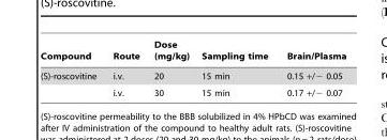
<table><thead><tr><td>Compound</td><td>Route</td><td>Dose (mg/kg)</td><td>Sampling time</td><td>Brain/Plasma</td></tr></thead><tbody><tr><td rowspan="2">(S)-roscovitine</td><td>i.v.</td><td>20</td><td>15 min</td><td>0.15 +/− 0.05</td></tr><tr><td>i.v.</td><td>30</td><td>15 min</td><td>0.17 +/− 0.07</td></tr></tbody></table>